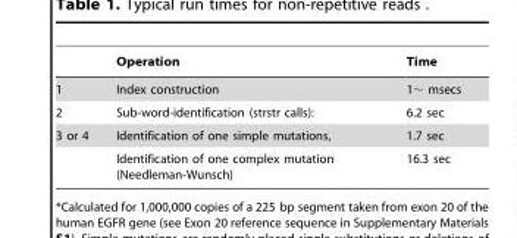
<table><thead><tr><td></td><td>Operation</td><td>Time</td></tr></thead><tbody><tr><td>1</td><td>Index construction</td><td>1∼ msecs</td></tr><tr><td>2</td><td>Sub-word-identification (strstr calls):</td><td>6.2 sec</td></tr><tr><td rowspan="2">3 or 4</td><td>Identification of one simple mutations,</td><td>1.7 sec</td></tr><tr><td>Identification of one complex mutation (Needleman-Wunsch)</td><td>16.3 sec</td></tr></tbody></table>